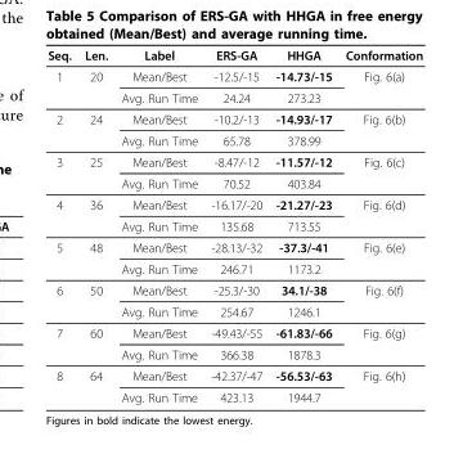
<table><thead><tr><td>Seq.</td><td>Len.</td><td>Label</td><td>ERS-GA</td><td>HHGA</td><td>Conformation</td></tr></thead><tbody><tr><td rowspan="2">1</td><td>20</td><td>Mean/Best</td><td>-12.5/-15</td><td>-14.73/-15</td><td>Fig. 6(a)</td></tr><tr><td></td><td>Avg. Run Time</td><td>24.24</td><td>273.23</td><td></td></tr><tr><td rowspan="2">2</td><td>24</td><td>Mean/Best</td><td>-10.2/-13</td><td>-14.93/-17</td><td>Fig. 6(b)</td></tr><tr><td></td><td>Avg. Run Time</td><td>65.78</td><td>378.99</td><td></td></tr><tr><td rowspan="2">3</td><td>25</td><td>Mean/Best</td><td>-8.47/-12</td><td>-11.57/-12</td><td>Fig. 6(c)</td></tr><tr><td></td><td>Avg. Run Time</td><td>70.52</td><td>403.84</td><td></td></tr><tr><td rowspan="2">4</td><td>36</td><td>Mean/Best</td><td>-16.17/-20</td><td>-21.27/-23</td><td>Fig. 6(d)</td></tr><tr><td></td><td>Avg. Run Time</td><td>135.68</td><td>713.55</td><td></td></tr><tr><td rowspan="2">5</td><td>48</td><td>Mean/Best</td><td>-28.13/-32</td><td>-37.3/-41</td><td>Fig. 6(e)</td></tr><tr><td></td><td>Avg. Run Time</td><td>246.71</td><td>1173.2</td><td></td></tr><tr><td rowspan="2">6</td><td>50</td><td>Mean/Best</td><td>-25.3/-30</td><td>34.1/-38</td><td>Fig. 6(f)</td></tr><tr><td></td><td>Avg. Run Time</td><td>254.67</td><td>1246.1</td><td></td></tr><tr><td rowspan="2">7</td><td>60</td><td>Mean/Best</td><td>-49.43/-55</td><td>-61.83/-66</td><td>Fig. 6(g)</td></tr><tr><td></td><td>Avg. Run Time</td><td>366.38</td><td>1878.3</td><td></td></tr><tr><td rowspan="2">8</td><td>64</td><td>Mean/Best</td><td>-42.37/-47</td><td>-56.53/-63</td><td>Fig. 6(h)</td></tr><tr><td></td><td>Avg. Run Time</td><td>423.13</td><td>1944.7</td><td></td></tr></tbody></table>